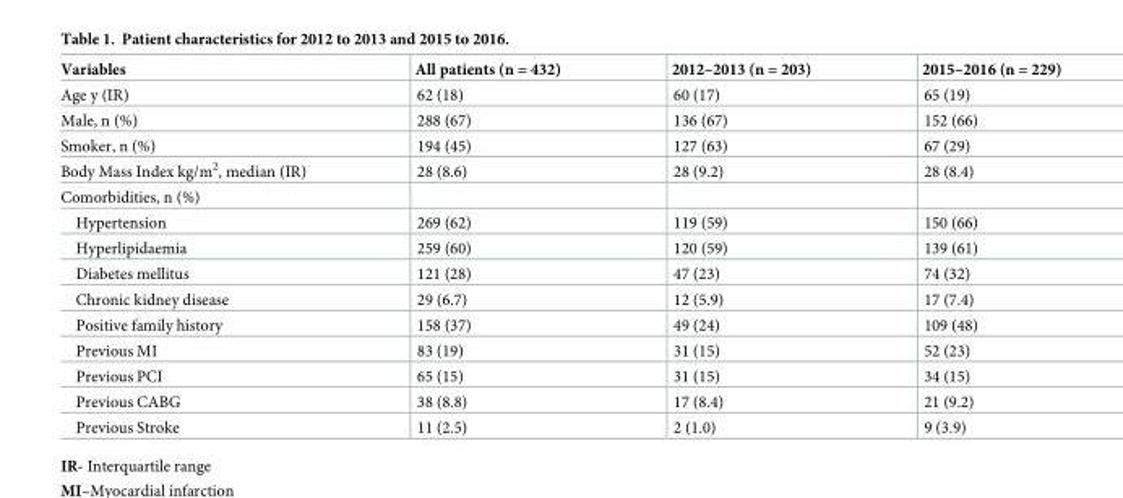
<table><thead><tr><td>Variables</td><td>All patients (n = 432)</td><td>2012–2013 (n = 203)</td><td>2015–2016 (n = 229)</td></tr></thead><tbody><tr><td>Age y (IR)</td><td>62 (18)</td><td>60 (17)</td><td>65 (19)</td></tr><tr><td>Male, n (%)</td><td>288 (67)</td><td>136 (67)</td><td>152 (66)</td></tr><tr><td>Smoker, n (%)</td><td>194 (45)</td><td>127 (63)</td><td>67 (29)</td></tr><tr><td>Body Mass Index kg/m<sup>2</sup>, median (IR)</td><td>28 (8.6)</td><td>28 (9.2)</td><td>28 (8.4)</td></tr><tr><td colspan="4">Comorbidities, n (%)</td></tr><tr><td>Hypertension</td><td>269 (62)</td><td>119 (59)</td><td>150 (66)</td></tr><tr><td>Hyperlipidaemia</td><td>259 (60)</td><td>120 (59)</td><td>139 (61)</td></tr><tr><td>Diabetes mellitus</td><td>121 (28)</td><td>47 (23)</td><td>74 (32)</td></tr><tr><td>Chronic kidney disease</td><td>29 (6.7)</td><td>12 (5.9)</td><td>17 (7.4)</td></tr><tr><td>Positive family history</td><td>158 (37)</td><td>49 (24)</td><td>109 (48)</td></tr><tr><td>Previous MI</td><td>83 (19)</td><td>31 (15)</td><td>52 (23)</td></tr><tr><td>Previous PCI</td><td>65 (15)</td><td>31 (15)</td><td>34 (15)</td></tr><tr><td>Previous CABG</td><td>38 (8.8)</td><td>17 (8.4)</td><td>21 (9.2)</td></tr><tr><td>Previous Stroke</td><td>11 (2.5)</td><td>2 (1.0)</td><td>9 (3.9)</td></tr></tbody></table>